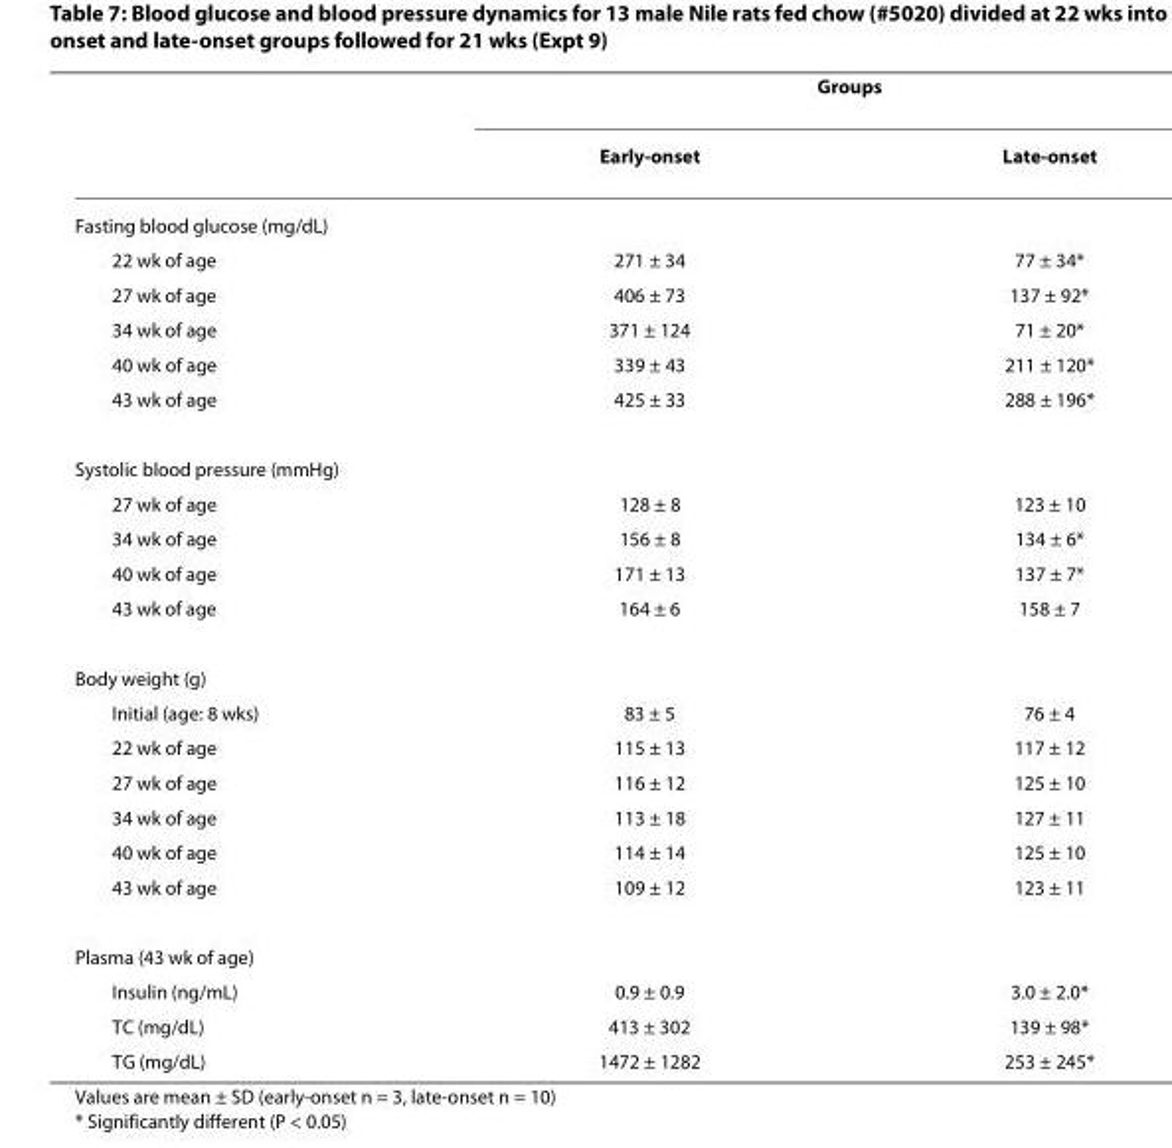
<table><thead><tr><td rowspan="2"></td><td colspan="2">Groups</td></tr><tr><td>Early-onset</td><td>Late-onset</td></tr></thead><tbody><tr><td colspan="3">Fasting blood glucose (mg/dL)</td></tr><tr><td>22 wk of age</td><td>271 ± 34</td><td>77 ± 34*</td></tr><tr><td>27 wk of age</td><td>406 ± 73</td><td>137 ± 92*</td></tr><tr><td>34 wk of age</td><td>371 ± 124</td><td>71 ± 20*</td></tr><tr><td>40 wk of age</td><td>339 ± 43</td><td>211 ± 120*</td></tr><tr><td>43 wk of age</td><td>425 ± 33</td><td>288 ± 196*</td></tr><tr><td colspan="3">Systolic blood pressure (mmHg)</td></tr><tr><td>27 wk of age</td><td>128 ± 8</td><td>123 ± 10</td></tr><tr><td>34 wk of age</td><td>156 ± 8</td><td>134 ± 6*</td></tr><tr><td>40 wk of age</td><td>171 ± 13</td><td>137 ± 7*</td></tr><tr><td>43 wk of age</td><td>164 ± 6</td><td>158 ± 7</td></tr><tr><td colspan="3">Body weight (g)</td></tr><tr><td>Initial (age: 8 wks)</td><td>83 ± 5</td><td>76 ± 4</td></tr><tr><td>22 wk of age</td><td>115 ± 13</td><td>117 ± 12</td></tr><tr><td>27 wk of age</td><td>116 ± 12</td><td>125 ± 10</td></tr><tr><td>34 wk of age</td><td>113 ± 18</td><td>127 ± 11</td></tr><tr><td>40 wk of age</td><td>114 ± 14</td><td>125 ± 10</td></tr><tr><td>43 wk of age</td><td>109 ± 12</td><td>123 ± 11</td></tr><tr><td colspan="3">Plasma (43 wk of age)</td></tr><tr><td>Insulin (ng/mL)</td><td>0.9 ± 0.9</td><td>3.0 ± 2.0*</td></tr><tr><td>TC (mg/dL)</td><td>413 ± 302</td><td>139 ± 98*</td></tr><tr><td>TG (mg/dL)</td><td>1472 ± 1282</td><td>253 ± 245*</td></tr></tbody></table>